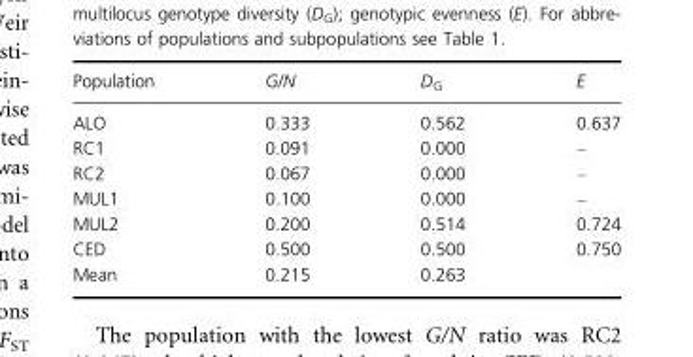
<table><thead><tr><td>Population</td><td>G/N</td><td>D<sub>G</sub></td><td>E</td></tr></thead><tbody><tr><td>ALO</td><td>0.333</td><td>0.562</td><td>0.637</td></tr><tr><td>RC1</td><td>0.091</td><td>0.000</td><td>–</td></tr><tr><td>RC2</td><td>0.067</td><td>0.000</td><td>–</td></tr><tr><td>MUL1</td><td>0.100</td><td>0.000</td><td>–</td></tr><tr><td>MUL2</td><td>0.200</td><td>0.514</td><td>0.724</td></tr><tr><td>CED</td><td>0.500</td><td>0.500</td><td>0.750</td></tr><tr><td>Mean</td><td>0.215</td><td>0.263</td><td></td></tr></tbody></table>